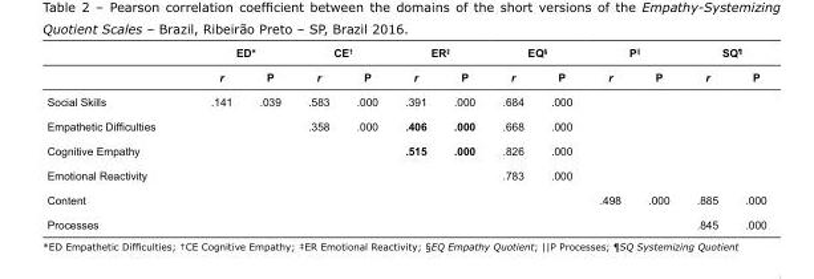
<table><thead><tr><td rowspan="2"></td><td colspan="2">ED*</td><td colspan="2">CE<sup>†</sup></td><td colspan="2">ER<sup>‡</sup></td><td colspan="2">EQ<sup>§</sup></td><td colspan="2">P<sup>||</sup></td><td colspan="2">SQ<sup>¶</sup></td></tr><tr><td>r</td><td>P</td><td>r</td><td>P</td><td>r</td><td>P</td><td>r</td><td>P</td><td>r</td><td>P</td><td>r</td><td>P</td></tr></thead><tbody><tr><td>Social Skills</td><td>.141</td><td>.039</td><td>.583</td><td>.000</td><td>.391</td><td>.000</td><td>.684</td><td>.000</td><td></td><td></td><td></td><td></td></tr><tr><td>Empathetic Difficulties</td><td></td><td></td><td>.358</td><td>.000</td><td>.406</td><td>.000</td><td>.668</td><td>.000</td><td></td><td></td><td></td><td></td></tr><tr><td>Cognitive Empathy</td><td></td><td></td><td></td><td></td><td>.515</td><td>.000</td><td>.826</td><td>.000</td><td></td><td></td><td></td><td></td></tr><tr><td>Emotional Reactivity</td><td></td><td></td><td></td><td></td><td></td><td></td><td>.783</td><td>.000</td><td></td><td></td><td></td><td></td></tr><tr><td>Content</td><td></td><td></td><td></td><td></td><td></td><td></td><td></td><td></td><td>.498</td><td>.000</td><td>.885</td><td>.000</td></tr><tr><td>Processes</td><td></td><td></td><td></td><td></td><td></td><td></td><td></td><td></td><td></td><td></td><td>.845</td><td>.000</td></tr></tbody></table>